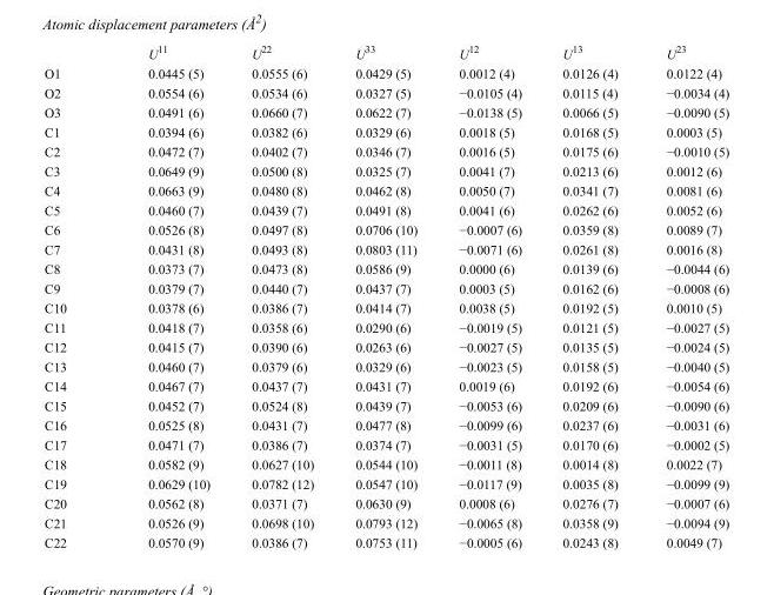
<table><thead><tr><td></td><td>U<sup>11</sup></td><td>U<sup>22</sup></td><td>U<sup>33</sup></td><td>U<sup>12</sup></td><td>U<sup>13</sup></td><td>U<sup>23</sup></td></tr></thead><tbody><tr><td>O1</td><td>0.0445 (5)</td><td>0.0555 (6)</td><td>0.0429 (5)</td><td>0.0012 (4)</td><td>0.0126 (4)</td><td>0.0122 (4)</td></tr><tr><td>O2</td><td>0.0554 (6)</td><td>0.0534 (6)</td><td>0.0327 (5)</td><td>−0.0105 (4)</td><td>0.0115 (4)</td><td>−0.0034 (4)</td></tr><tr><td>O3</td><td>0.0491 (6)</td><td>0.0660 (7)</td><td>0.0622 (7)</td><td>−0.0138 (5)</td><td>0.0066 (5)</td><td>−0.0090 (5)</td></tr><tr><td>C1</td><td>0.0394 (6)</td><td>0.0382 (6)</td><td>0.0329 (6)</td><td>0.0018 (5)</td><td>0.0168 (5)</td><td>0.0003 (5)</td></tr><tr><td>C2</td><td>0.0472 (7)</td><td>0.0402 (7)</td><td>0.0346 (7)</td><td>0.0016 (5)</td><td>0.0175 (6)</td><td>−0.0010 (5)</td></tr><tr><td>C3</td><td>0.0649 (9)</td><td>0.0500 (8)</td><td>0.0325 (7)</td><td>0.0041 (7)</td><td>0.0213 (6)</td><td>0.0012 (6)</td></tr><tr><td>C4</td><td>0.0663 (9)</td><td>0.0480 (8)</td><td>0.0462 (8)</td><td>0.0050 (7)</td><td>0.0341 (7)</td><td>0.0081 (6)</td></tr><tr><td>C5</td><td>0.0460 (7)</td><td>0.0439 (7)</td><td>0.0491 (8)</td><td>0.0041 (6)</td><td>0.0262 (6)</td><td>0.0052 (6)</td></tr><tr><td>C6</td><td>0.0526 (8)</td><td>0.0497 (8)</td><td>0.0706 (10)</td><td>−0.0007 (6)</td><td>0.0359 (8)</td><td>0.0089 (7)</td></tr><tr><td>C7</td><td>0.0431 (8)</td><td>0.0493 (8)</td><td>0.0803 (11)</td><td>−0.0071 (6)</td><td>0.0261 (8)</td><td>0.0016 (8)</td></tr><tr><td>C8</td><td>0.0373 (7)</td><td>0.0473 (8)</td><td>0.0586 (9)</td><td>0.0000 (6)</td><td>0.0139 (6)</td><td>−0.0044 (6)</td></tr><tr><td>C9</td><td>0.0379 (7)</td><td>0.0440 (7)</td><td>0.0437 (7)</td><td>0.0003 (5)</td><td>0.0162 (6)</td><td>−0.0008 (6)</td></tr><tr><td>C10</td><td>0.0378 (6)</td><td>0.0386 (7)</td><td>0.0414 (7)</td><td>0.0038 (5)</td><td>0.0192 (5)</td><td>0.0010 (5)</td></tr><tr><td>C11</td><td>0.0418 (7)</td><td>0.0358 (6)</td><td>0.0290 (6)</td><td>−0.0019 (5)</td><td>0.0121 (5)</td><td>−0.0027 (5)</td></tr><tr><td>C12</td><td>0.0415 (7)</td><td>0.0390 (6)</td><td>0.0263 (6)</td><td>−0.0027 (5)</td><td>0.0135 (5)</td><td>−0.0024 (5)</td></tr><tr><td>C13</td><td>0.0460 (7)</td><td>0.0379 (6)</td><td>0.0329 (6)</td><td>−0.0023 (5)</td><td>0.0158 (5)</td><td>−0.0040 (5)</td></tr><tr><td>C14</td><td>0.0467 (7)</td><td>0.0437 (7)</td><td>0.0431 (7)</td><td>0.0019 (6)</td><td>0.0192 (6)</td><td>−0.0054 (6)</td></tr><tr><td>C15</td><td>0.0452 (7)</td><td>0.0524 (8)</td><td>0.0439 (7)</td><td>−0.0053 (6)</td><td>0.0209 (6)</td><td>−0.0090 (6)</td></tr><tr><td>C16</td><td>0.0525 (8)</td><td>0.0431 (7)</td><td>0.0477 (8)</td><td>−0.0099 (6)</td><td>0.0237 (6)</td><td>−0.0031 (6)</td></tr><tr><td>C17</td><td>0.0471 (7)</td><td>0.0386 (7)</td><td>0.0374 (7)</td><td>−0.0031 (5)</td><td>0.0170 (6)</td><td>−0.0002 (5)</td></tr><tr><td>C18</td><td>0.0582 (9)</td><td>0.0627 (10)</td><td>0.0544 (10)</td><td>−0.0011 (8)</td><td>0.0014 (8)</td><td>0.0022 (7)</td></tr><tr><td>C19</td><td>0.0629 (10)</td><td>0.0782 (12)</td><td>0.0547 (10)</td><td>−0.0117 (9)</td><td>0.0035 (8)</td><td>−0.0099 (9)</td></tr><tr><td>C20</td><td>0.0562 (8)</td><td>0.0371 (7)</td><td>0.0630 (9)</td><td>0.0008 (6)</td><td>0.0276 (7)</td><td>−0.0007 (6)</td></tr><tr><td>C21</td><td>0.0526 (9)</td><td>0.0698 (10)</td><td>0.0793 (12)</td><td>−0.0065 (8)</td><td>0.0358 (9)</td><td>−0.0094 (9)</td></tr><tr><td>C22</td><td>0.0570 (9)</td><td>0.0386 (7)</td><td>0.0753 (11)</td><td>−0.0005 (6)</td><td>0.0243 (8)</td><td>0.0049 (7)</td></tr></tbody></table>